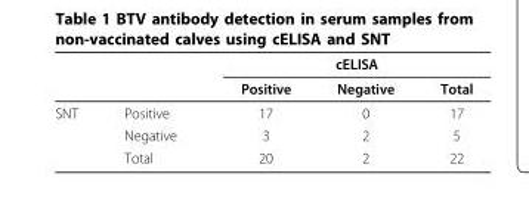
<table><thead><tr><td rowspan="2"></td><td rowspan="2"></td><td colspan="3">cELISA</td></tr><tr><td>Positive</td><td>Negative</td><td>Total</td></tr></thead><tbody><tr><td rowspan="3">SNT</td><td>Positive</td><td>17</td><td>0</td><td>17</td></tr><tr><td>Negative</td><td>3</td><td>2</td><td>5</td></tr><tr><td>Total</td><td>20</td><td>2</td><td>22</td></tr></tbody></table>